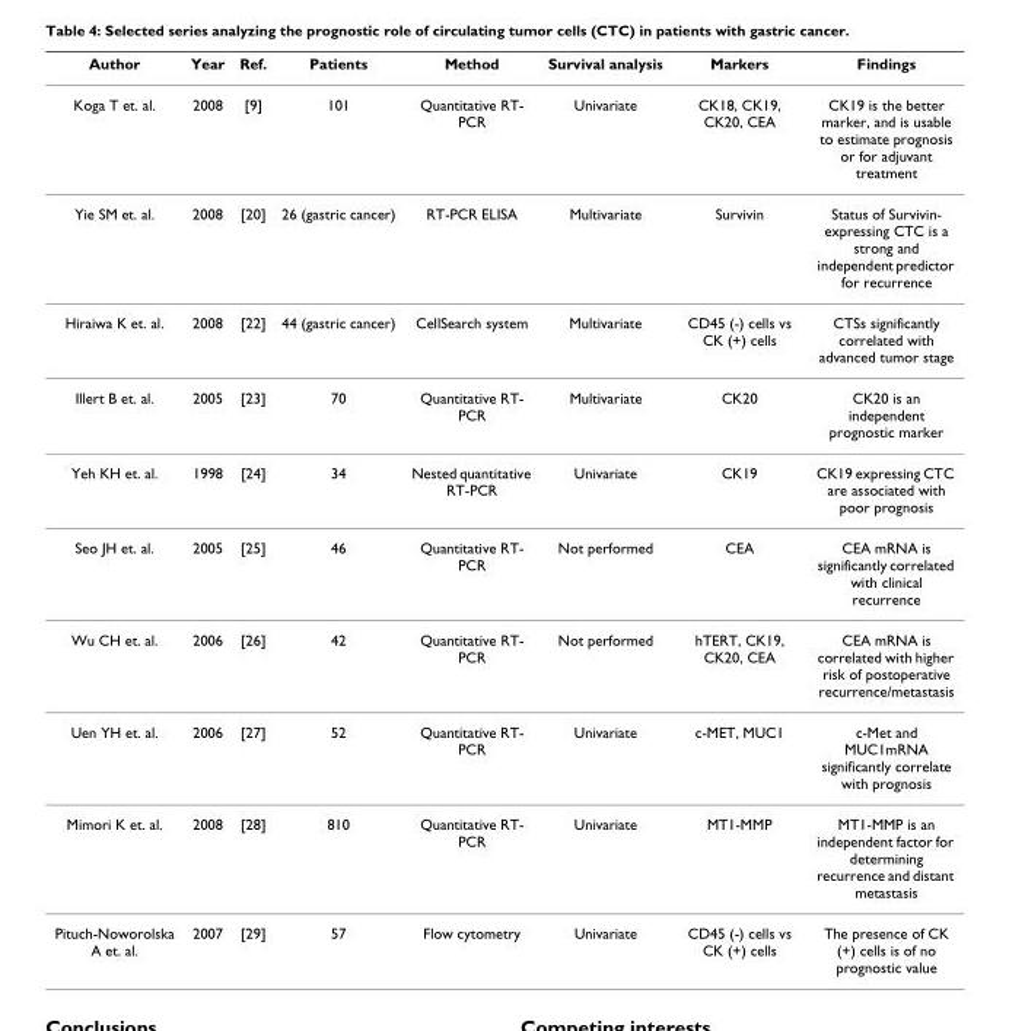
<table><thead><tr><td>Author</td><td>Year</td><td>Ref.</td><td>Patients</td><td>Method</td><td>Survival analysis</td><td>Markers</td><td>Findings</td></tr></thead><tbody><tr><td>Koga T et. al.</td><td>2008</td><td>[9]</td><td>101</td><td>Quantitative RT- PCR</td><td>Univariate</td><td>CK18, CK19, CK20, CEA</td><td>CK19 is the better marker, and is usable to estimate prognosis or for adjuvant treatment</td></tr><tr><td>Yie SM et. al.</td><td>2008</td><td>[20]</td><td>26 (gastric cancer)</td><td>RT-PCR ELISA</td><td>Multivariate</td><td>Survivin</td><td>Status of Survivin- expressing CTC is a strong and independent predictor for recurrence</td></tr><tr><td>Hiraiwa K et. al.</td><td>2008</td><td>[22]</td><td>44 (gastric cancer)</td><td>CellSearch system</td><td>Multivariate</td><td>CD45 (-) cells vs CK (+) cells</td><td>CTSs significantly correlated with advanced tumor stage</td></tr><tr><td>Illert B et. al.</td><td>2005</td><td>[23]</td><td>70</td><td>Quantitative RT- PCR</td><td>Multivariate</td><td>CK20</td><td>CK20 is an independent prognostic marker</td></tr><tr><td>Yeh KH et. al.</td><td>1998</td><td>[24]</td><td>34</td><td>Nested quantitative RT-PCR</td><td>Univariate</td><td>CK19</td><td>CK19 expressing CTC are associated with poor prognosis</td></tr><tr><td>Seo JH et. al.</td><td>2005</td><td>[25]</td><td>46</td><td>Quantitative RT- PCR</td><td>Not performed</td><td>CEA</td><td>CEA mRNA is significantly correlated with clinical recurrence</td></tr><tr><td>Wu CH et. al.</td><td>2006</td><td>[26]</td><td>42</td><td>Quantitative RT- PCR</td><td>Not performed</td><td>hTERT, CK19, CK20, CEA</td><td>CEA mRNA is correlated with higher risk of postoperative recurrence/metastasis</td></tr><tr><td>Uen YH et. al.</td><td>2006</td><td>[27]</td><td>52</td><td>Quantitative RT- PCR</td><td>Univariate</td><td>c-MET, MUC1</td><td>c-Met and MUC1mRNA significantly correlate with prognosis</td></tr><tr><td>Mimori K et. al.</td><td>2008</td><td>[28]</td><td>810</td><td>Quantitative RT- PCR</td><td>Univariate</td><td>MT1-MMP</td><td>MT1-MMP is an independent factor for determining recurrence and distant metastasis</td></tr><tr><td>Pituch-Noworolska A et. al.</td><td>2007</td><td>[29]</td><td>57</td><td>Flow cytometry</td><td>Univariate</td><td>CD45 (-) cells vs CK (+) cells</td><td>The presence of CK (+) cells is of no prognostic value</td></tr></tbody></table>